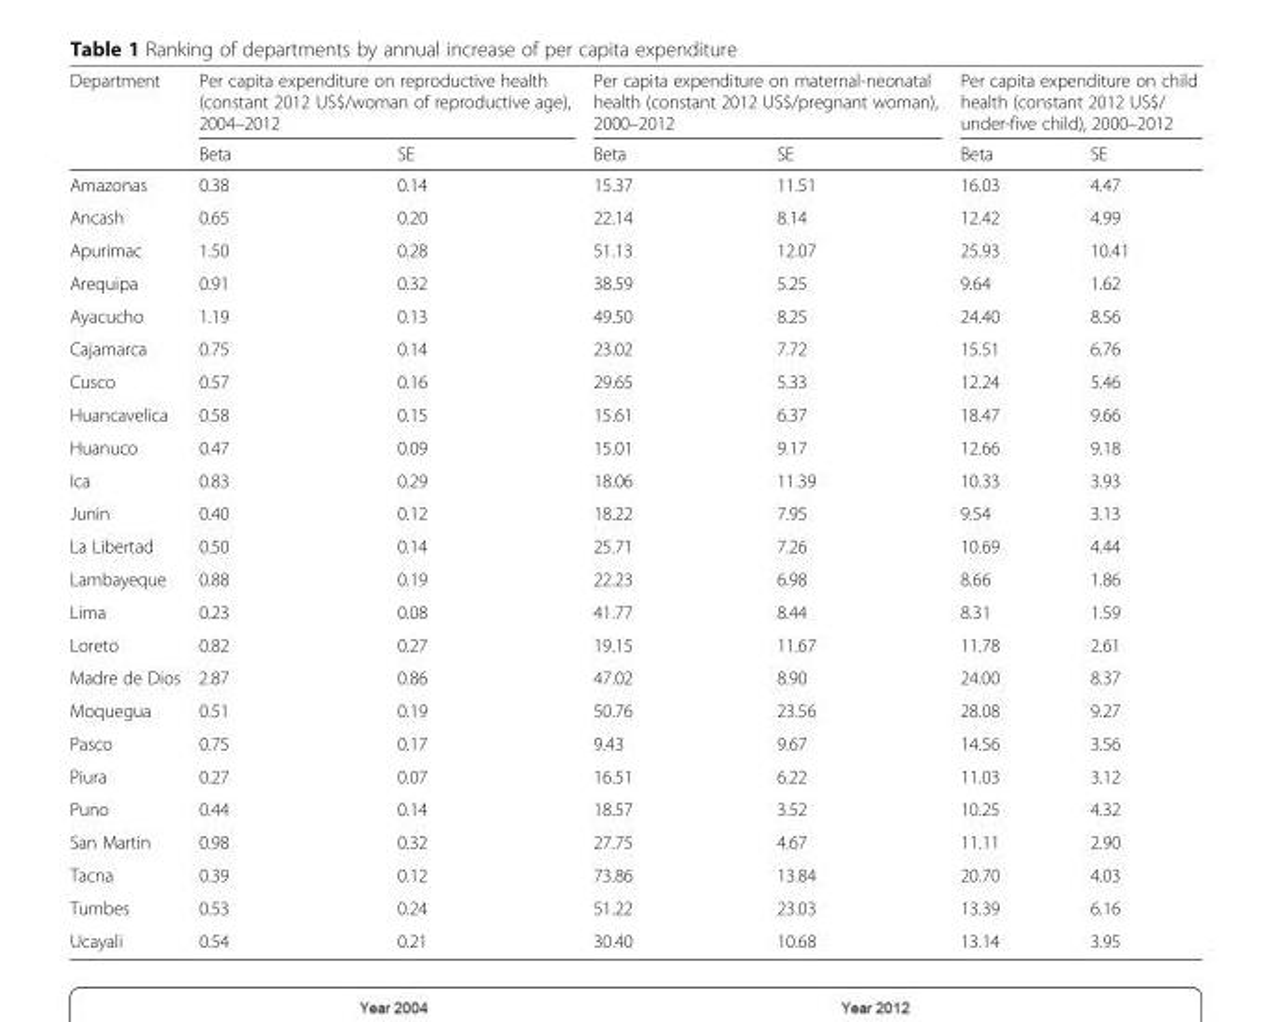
<table><thead><tr><td rowspan="2">Department</td><td colspan="2">Per capita expenditure on reproductive health (constant 2012 US$/woman of reproductive age), 2004–2012</td><td colspan="2">Per capita expenditure on maternal-neonatal health (constant 2012 US$/pregnant woman), 2000–2012</td><td colspan="2">Per capita expenditure on child health (constant 2012 US$/ under-five child), 2000–2012</td></tr><tr><td>Beta</td><td>SE</td><td>Beta</td><td>SE</td><td>Beta</td><td>SE</td></tr></thead><tbody><tr><td>Amazonas</td><td>0.38</td><td>0.14</td><td>15.37</td><td>11.51</td><td>16.03</td><td>4.47</td></tr><tr><td>Ancash</td><td>0.65</td><td>0.20</td><td>22.14</td><td>8.14</td><td>12.42</td><td>4.99</td></tr><tr><td>Apurimac</td><td>1.50</td><td>0.28</td><td>51.13</td><td>12.07</td><td>25.93</td><td>10.41</td></tr><tr><td>Arequipa</td><td>0.91</td><td>0.32</td><td>38.59</td><td>5.25</td><td>9.64</td><td>1.62</td></tr><tr><td>Ayacucho</td><td>1.19</td><td>0.13</td><td>49.50</td><td>8.25</td><td>24.40</td><td>8.56</td></tr><tr><td>Cajamarca</td><td>0.75</td><td>0.14</td><td>23.02</td><td>7.72</td><td>15.51</td><td>6.76</td></tr><tr><td>Cusco</td><td>0.57</td><td>0.16</td><td>29.65</td><td>5.33</td><td>12.24</td><td>5.46</td></tr><tr><td>Huancavelica</td><td>0.58</td><td>0.15</td><td>15.61</td><td>6.37</td><td>18.47</td><td>9.66</td></tr><tr><td>Huanuco</td><td>0.47</td><td>0.09</td><td>15.01</td><td>9.17</td><td>12.66</td><td>9.18</td></tr><tr><td>Ica</td><td>0.83</td><td>0.29</td><td>18.06</td><td>11.39</td><td>10.33</td><td>3.93</td></tr><tr><td>Junin</td><td>0.40</td><td>0.12</td><td>18.22</td><td>7.95</td><td>9.54</td><td>3.13</td></tr><tr><td>La Libertad</td><td>0.50</td><td>0.14</td><td>25.71</td><td>7.26</td><td>10.69</td><td>4.44</td></tr><tr><td>Lambayeque</td><td>0.88</td><td>0.19</td><td>22.23</td><td>6.98</td><td>8.66</td><td>1.86</td></tr><tr><td>Lima</td><td>0.23</td><td>0.08</td><td>41.77</td><td>8.44</td><td>8.31</td><td>1.59</td></tr><tr><td>Loreto</td><td>0.82</td><td>0.27</td><td>19.15</td><td>11.67</td><td>11.78</td><td>2.61</td></tr><tr><td>Madre de Dios</td><td>2.87</td><td>0.86</td><td>47.02</td><td>8.90</td><td>24.00</td><td>8.37</td></tr><tr><td>Moquegua</td><td>0.51</td><td>0.19</td><td>50.76</td><td>23.56</td><td>28.08</td><td>9.27</td></tr><tr><td>Pasco</td><td>0.75</td><td>0.17</td><td>9.43</td><td>9.67</td><td>14.56</td><td>3.56</td></tr><tr><td>Piura</td><td>0.27</td><td>0.07</td><td>16.51</td><td>6.22</td><td>11.03</td><td>3.12</td></tr><tr><td>Puno</td><td>0.44</td><td>0.14</td><td>18.57</td><td>3.52</td><td>10.25</td><td>4.32</td></tr><tr><td>San Martin</td><td>0.98</td><td>0.32</td><td>27.75</td><td>4.67</td><td>11.11</td><td>2.90</td></tr><tr><td>Tacna</td><td>0.39</td><td>0.12</td><td>73.86</td><td>13.84</td><td>20.70</td><td>4.03</td></tr><tr><td>Tumbes</td><td>0.53</td><td>0.24</td><td>51.22</td><td>23.03</td><td>13.39</td><td>6.16</td></tr><tr><td>Ucayali</td><td>0.54</td><td>0.21</td><td>30.40</td><td>10.68</td><td>13.14</td><td>3.95</td></tr></tbody></table>